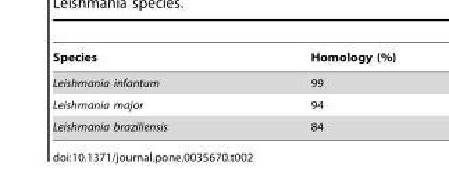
<table><thead><tr><td>Species</td><td>Homology (%)</td></tr></thead><tbody><tr><td>Leishmania infantum</td><td>99</td></tr><tr><td>Leishmania major</td><td>94</td></tr><tr><td>Leishmania braziliensis</td><td>84</td></tr></tbody></table>